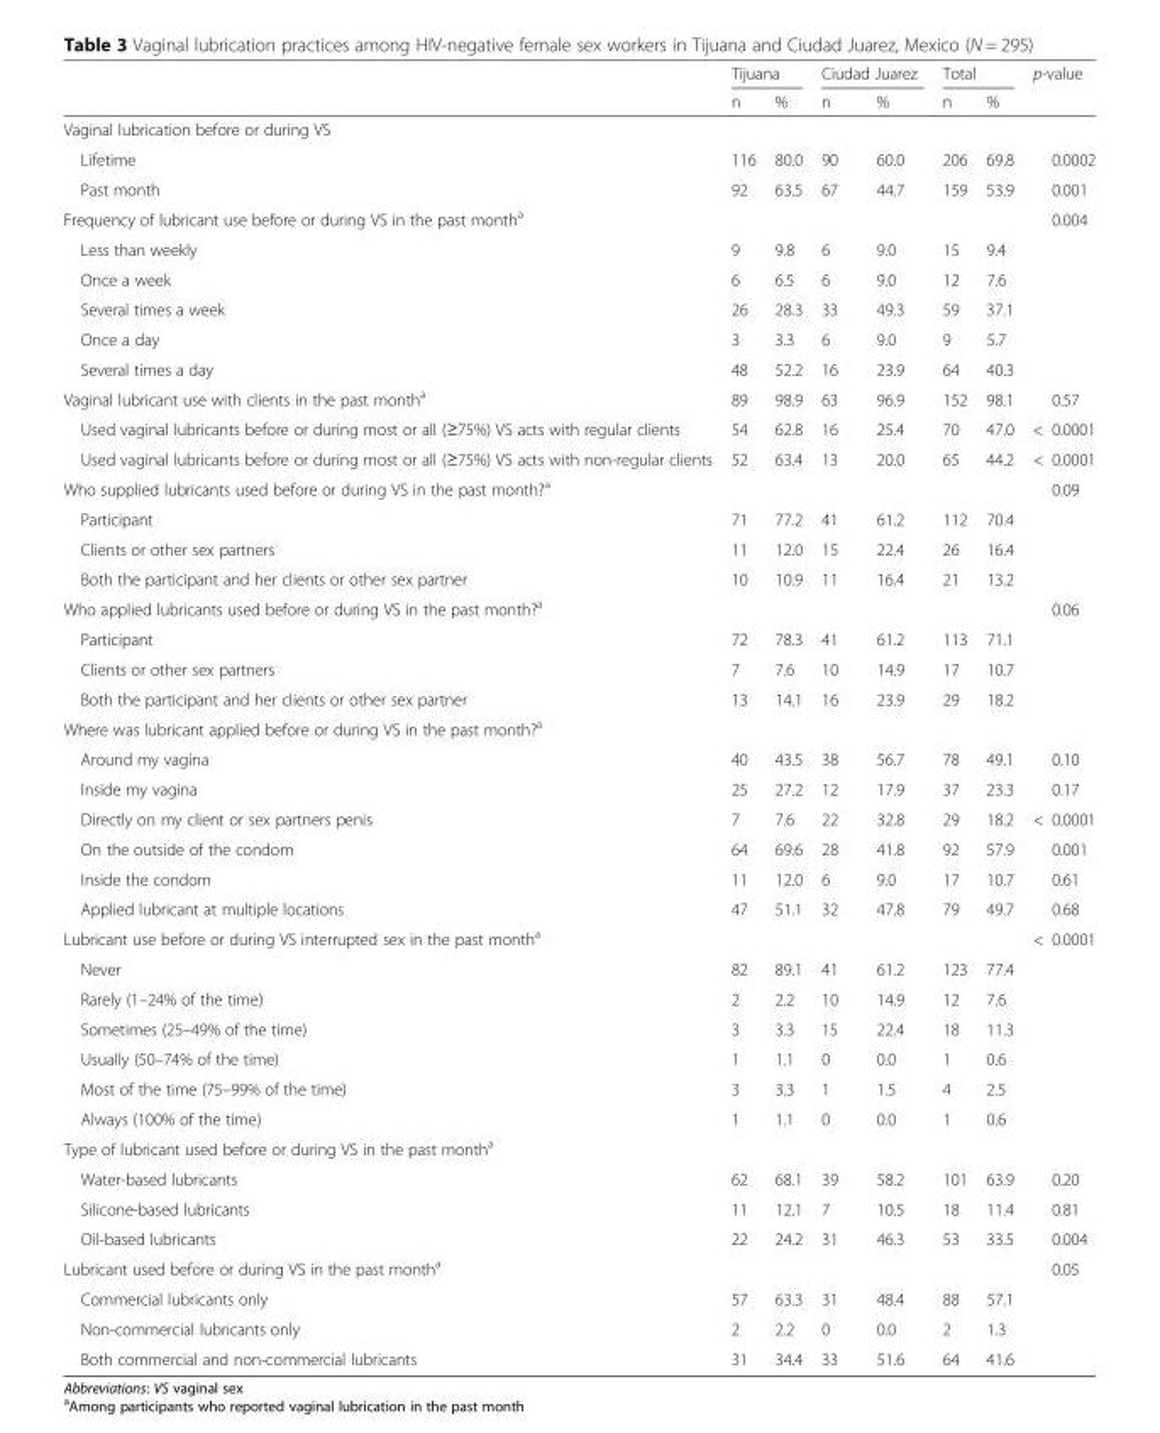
<table><thead><tr><td rowspan="2"></td><td colspan="2">Tijuana</td><td colspan="2">Ciudad Juarez</td><td colspan="2">Total</td><td rowspan="2">p-value</td></tr><tr><td>n</td><td>%</td><td>n</td><td>%</td><td>n</td><td>%</td></tr></thead><tbody><tr><td colspan="8">Vaginal lubrication before or during VS</td></tr><tr><td>Lifetime</td><td>116</td><td>80.0</td><td>90</td><td>60.0</td><td>206</td><td>69.8</td><td>0.0002</td></tr><tr><td>Past month</td><td>92</td><td>63.5</td><td>67</td><td>44.7</td><td>159</td><td>53.9</td><td>0.001</td></tr><tr><td>Frequency of lubricant use before or during VS in the past month<sup>a</sup></td><td></td><td></td><td></td><td></td><td></td><td></td><td>0.004</td></tr><tr><td>Less than weekly</td><td>9</td><td>9.8</td><td>6</td><td>9.0</td><td>15</td><td>9.4</td><td></td></tr><tr><td>Once a week</td><td>6</td><td>6.5</td><td>6</td><td>9.0</td><td>12</td><td>7.6</td><td></td></tr><tr><td>Several times a week</td><td>26</td><td>28.3</td><td>33</td><td>49.3</td><td>59</td><td>37.1</td><td></td></tr><tr><td>Once a day</td><td>3</td><td>3.3</td><td>6</td><td>9.0</td><td>9</td><td>5.7</td><td></td></tr><tr><td>Several times a day</td><td>48</td><td>52.2</td><td>16</td><td>23.9</td><td>64</td><td>40.3</td><td></td></tr><tr><td>Vaginal lubricant use with clients in the past month<sup>a</sup></td><td>89</td><td>98.9</td><td>63</td><td>96.9</td><td>152</td><td>98.1</td><td>0.57</td></tr><tr><td>Used vaginal lubricants before or during most or all (≥75%) VS acts with regular clients</td><td>54</td><td>62.8</td><td>16</td><td>25.4</td><td>70</td><td>47.0</td><td>&lt; 0.0001</td></tr><tr><td>Used vaginal lubricants before or during most or all (≥75%) VS acts with non-regular clients</td><td>52</td><td>63.4</td><td>13</td><td>20.0</td><td>65</td><td>44.2</td><td>&lt; 0.0001</td></tr><tr><td>Who supplied lubricants used before or during VS in the past month?<sup>a</sup></td><td></td><td></td><td></td><td></td><td></td><td></td><td>0.09</td></tr><tr><td>Participant</td><td>71</td><td>77.2</td><td>41</td><td>61.2</td><td>112</td><td>70.4</td><td></td></tr><tr><td>Clients or other sex partners</td><td>11</td><td>12.0</td><td>15</td><td>22.4</td><td>26</td><td>16.4</td><td></td></tr><tr><td>Both the participant and her clients or other sex partner</td><td>10</td><td>10.9</td><td>11</td><td>16.4</td><td>21</td><td>13.2</td><td></td></tr><tr><td>Who applied lubricants used before or during VS in the past month?<sup>a</sup></td><td></td><td></td><td></td><td></td><td></td><td></td><td>0.06</td></tr><tr><td>Participant</td><td>72</td><td>78.3</td><td>41</td><td>61.2</td><td>113</td><td>71.1</td><td></td></tr><tr><td>Clients or other sex partners</td><td>7</td><td>7.6</td><td>10</td><td>14.9</td><td>17</td><td>10.7</td><td></td></tr><tr><td>Both the participant and her clients or other sex partner</td><td>13</td><td>14.1</td><td>16</td><td>23.9</td><td>29</td><td>18.2</td><td></td></tr><tr><td colspan="8">Where was lubricant applied before or during VS in the past month?<sup>a</sup></td></tr><tr><td>Around my vagina</td><td>40</td><td>43.5</td><td>38</td><td>56.7</td><td>78</td><td>49.1</td><td>0.10</td></tr><tr><td>Inside my vagina</td><td>25</td><td>27.2</td><td>12</td><td>17.9</td><td>37</td><td>23.3</td><td>0.17</td></tr><tr><td>Directly on my client or sex partners penis</td><td>7</td><td>7.6</td><td>22</td><td>32.8</td><td>29</td><td>18.2</td><td>&lt; 0.0001</td></tr><tr><td>On the outside of the condom</td><td>64</td><td>69.6</td><td>28</td><td>41.8</td><td>92</td><td>57.9</td><td>0.001</td></tr><tr><td>Inside the condom</td><td>11</td><td>12.0</td><td>6</td><td>9.0</td><td>17</td><td>10.7</td><td>0.61</td></tr><tr><td>Applied lubricant at multiple locations</td><td>47</td><td>51.1</td><td>32</td><td>47.8</td><td>79</td><td>49.7</td><td>0.68</td></tr><tr><td>Lubricant use before or during VS interrupted sex in the past month<sup>a</sup></td><td></td><td></td><td></td><td></td><td></td><td></td><td>&lt; 0.0001</td></tr><tr><td>Never</td><td>82</td><td>89.1</td><td>41</td><td>61.2</td><td>123</td><td>77.4</td><td></td></tr><tr><td>Rarely (1–24% of the time)</td><td>2</td><td>2.2</td><td>10</td><td>14.9</td><td>12</td><td>7.6</td><td></td></tr><tr><td>Sometimes (25–49% of the time)</td><td>3</td><td>3.3</td><td>15</td><td>22.4</td><td>18</td><td>11.3</td><td></td></tr><tr><td>Usually (50–74% of the time)</td><td>1</td><td>1.1</td><td>0</td><td>0.0</td><td>1</td><td>0.6</td><td></td></tr><tr><td>Most of the time (75–99% of the time)</td><td>3</td><td>3.3</td><td>1</td><td>1.5</td><td>4</td><td>2.5</td><td></td></tr><tr><td>Always (100% of the time)</td><td>1</td><td>1.1</td><td>0</td><td>0.0</td><td>1</td><td>0.6</td><td></td></tr><tr><td colspan="8">Type of lubricant used before or during VS in the past month<sup>a</sup></td></tr><tr><td>Water-based lubricants</td><td>62</td><td>68.1</td><td>39</td><td>58.2</td><td>101</td><td>63.9</td><td>0.20</td></tr><tr><td>Silicone-based lubricants</td><td>11</td><td>12.1</td><td>7</td><td>10.5</td><td>18</td><td>11.4</td><td>0.81</td></tr><tr><td>Oil-based lubricants</td><td>22</td><td>24.2</td><td>31</td><td>46.3</td><td>53</td><td>33.5</td><td>0.004</td></tr><tr><td>Lubricant used before or during VS in the past month<sup>a</sup></td><td></td><td></td><td></td><td></td><td></td><td></td><td>0.05</td></tr><tr><td>Commercial lubricants only</td><td>57</td><td>63.3</td><td>31</td><td>48.4</td><td>88</td><td>57.1</td><td></td></tr><tr><td>Non-commercial lubricants only</td><td>2</td><td>2.2</td><td>0</td><td>0.0</td><td>2</td><td>1.3</td><td></td></tr><tr><td>Both commercial and non-commercial lubricants</td><td>31</td><td>34.4</td><td>33</td><td>51.6</td><td>64</td><td>41.6</td><td></td></tr></tbody></table>